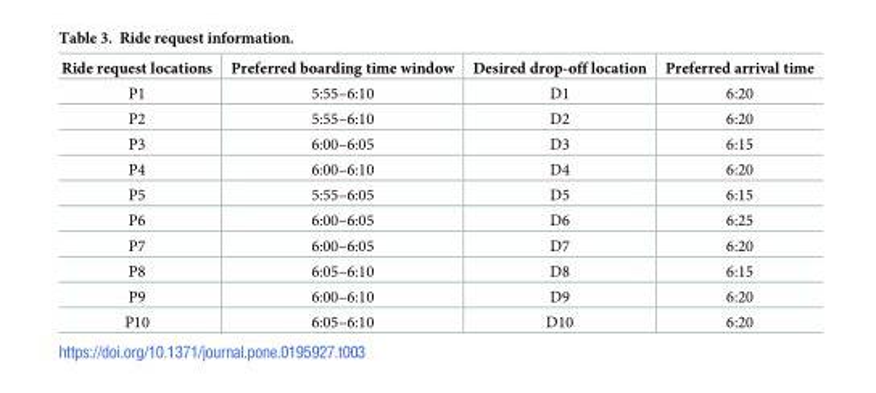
<table><thead><tr><td>Ride request locations</td><td>Preferred boarding time window</td><td>Desired drop-off location</td><td>Preferred arrival time</td></tr></thead><tbody><tr><td>P1</td><td>5:55–6:10</td><td>D1</td><td>6:20</td></tr><tr><td>P2</td><td>5:55–6:10</td><td>D2</td><td>6:20</td></tr><tr><td>P3</td><td>6:00–6:05</td><td>D3</td><td>6:15</td></tr><tr><td>P4</td><td>6:00–6:10</td><td>D4</td><td>6:20</td></tr><tr><td>P5</td><td>5:55–6:05</td><td>D5</td><td>6:15</td></tr><tr><td>P6</td><td>6:00–6:05</td><td>D6</td><td>6:25</td></tr><tr><td>P7</td><td>6:00–6:05</td><td>D7</td><td>6:20</td></tr><tr><td>P8</td><td>6:05–6:10</td><td>D8</td><td>6:15</td></tr><tr><td>P9</td><td>6:00–6:10</td><td>D9</td><td>6:20</td></tr><tr><td>P10</td><td>6:05–6:10</td><td>D10</td><td>6:20</td></tr></tbody></table>